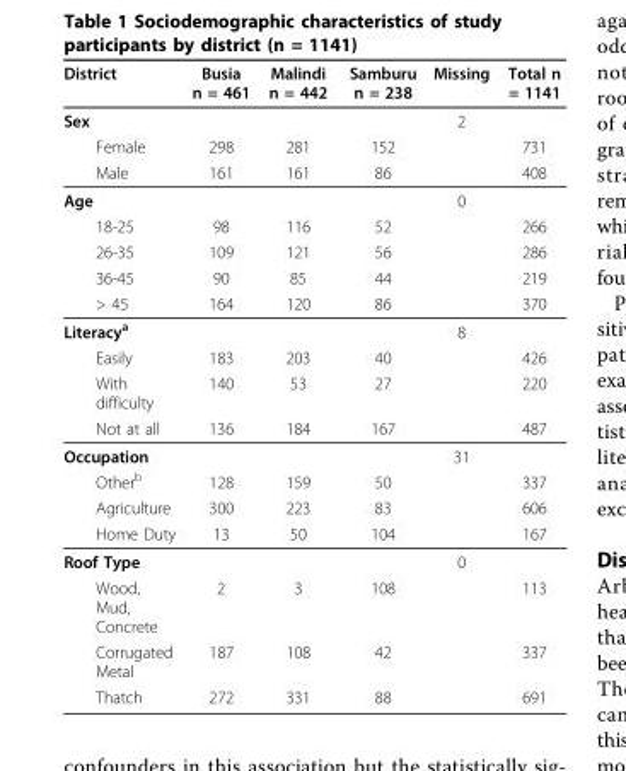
<table><thead><tr><td>District</td><td>Busia n = 461</td><td>Malindi n = 442</td><td>Samburu n = 238</td><td>Missing</td><td>Total n = 1141</td></tr></thead><tbody><tr><td>Sex</td><td></td><td></td><td></td><td>2</td><td></td></tr><tr><td>Female</td><td>298</td><td>281</td><td>152</td><td></td><td>731</td></tr><tr><td>Male</td><td>161</td><td>161</td><td>86</td><td></td><td>408</td></tr><tr><td>Age</td><td></td><td></td><td></td><td>0</td><td></td></tr><tr><td>18-25</td><td>98</td><td>116</td><td>52</td><td></td><td>266</td></tr><tr><td>26-35</td><td>109</td><td>121</td><td>56</td><td></td><td>286</td></tr><tr><td>36-45</td><td>90</td><td>85</td><td>44</td><td></td><td>219</td></tr><tr><td>&gt; 45</td><td>164</td><td>120</td><td>86</td><td></td><td>370</td></tr><tr><td>Literacy<sup>a</sup></td><td></td><td></td><td></td><td>8</td><td></td></tr><tr><td>Easily</td><td>183</td><td>203</td><td>40</td><td></td><td>426</td></tr><tr><td>With difficulty</td><td>140</td><td>53</td><td>27</td><td></td><td>220</td></tr><tr><td>Not at all</td><td>136</td><td>184</td><td>167</td><td></td><td>487</td></tr><tr><td>Occupation</td><td></td><td></td><td></td><td>31</td><td></td></tr><tr><td>Other<sup>b</sup></td><td>128</td><td>159</td><td>50</td><td></td><td>337</td></tr><tr><td>Agriculture</td><td>300</td><td>223</td><td>83</td><td></td><td>606</td></tr><tr><td>Home Duty</td><td>13</td><td>50</td><td>104</td><td></td><td>167</td></tr><tr><td>Roof Type</td><td></td><td></td><td></td><td>0</td><td></td></tr><tr><td>Wood, Mud, Concrete</td><td>2</td><td>3</td><td>108</td><td></td><td>113</td></tr><tr><td>Corrugated Metal</td><td>187</td><td>108</td><td>42</td><td></td><td>337</td></tr><tr><td>Thatch</td><td>272</td><td>331</td><td>88</td><td></td><td>691</td></tr></tbody></table>